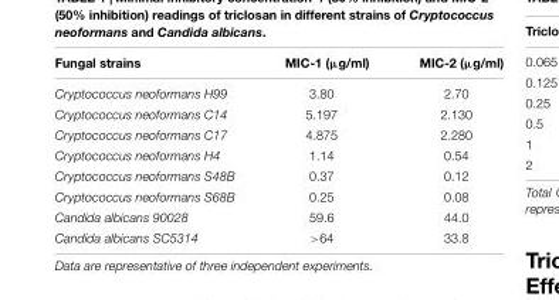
<table><thead><tr><td>Fungal strains</td><td>MIC-1 (µg/ml)</td><td>MIC-2 (µg/ml)</td></tr></thead><tbody><tr><td>Cryptococcus neoformans H99</td><td>3.80</td><td>2.70</td></tr><tr><td>Cryptococcus neoformans C14</td><td>5.197</td><td>2.130</td></tr><tr><td>Cryptococcus neoformans C17</td><td>4.875</td><td>2.280</td></tr><tr><td>Cryptococcus neoformans H4</td><td>1.14</td><td>0.54</td></tr><tr><td>Cryptococcus neoformans S48B</td><td>0.37</td><td>0.12</td></tr><tr><td>Cryptococcus neoformans S68B</td><td>0.25</td><td>0.08</td></tr><tr><td>Candida albicans 90028</td><td>59.6</td><td>44.0</td></tr><tr><td>Candida albicans SC5314</td><td>&gt;64</td><td>33.8</td></tr></tbody></table>